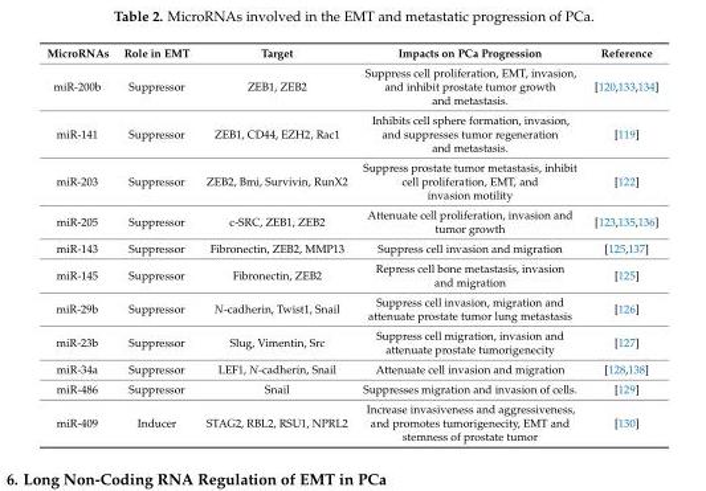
<table><thead><tr><td>MicroRNAs</td><td>Role in EMT</td><td>Target</td><td>Impacts on PCa Progression</td><td>Reference</td></tr></thead><tbody><tr><td>miR-200b</td><td>Suppressor</td><td>ZEB1, ZEB2</td><td>Suppress cell proliferation, EMT, invasion, and inhibit prostate tumor growth and metastasis.</td><td>[120,133,134]</td></tr><tr><td>miR-141</td><td>Suppressor</td><td>ZEB1, CD44, EZH2, Rac1</td><td>Inhibits cell sphere formation, invasion, and suppresses tumor regeneration and metastasis.</td><td>[119]</td></tr><tr><td>miR-203</td><td>Suppressor</td><td>ZEB2, Bmi, Survivin, RunX2</td><td>Suppress prostate tumor metastasis, inhibit cell proliferation, EMT, and invasion motility</td><td>[122]</td></tr><tr><td>miR-205</td><td>Suppressor</td><td>c-SRC, ZEB1, ZEB2</td><td>Attenuate cell proliferation, invasion and tumor growth</td><td>[123,135,136]</td></tr><tr><td>miR-143</td><td>Suppressor</td><td>Fibronectin, ZEB2, MMP13</td><td>Suppress cell invasion and migration</td><td>[125,137]</td></tr><tr><td>miR-145</td><td>Suppressor</td><td>Fibronectin, ZEB2</td><td>Repress cell bone metastasis, invasion and migration</td><td>[125]</td></tr><tr><td>miR-29b</td><td>Suppressor</td><td>N-cadherin, Twist1, Snail</td><td>Suppress cell invasion, migration and attenuate prostate tumor lung metastasis</td><td>[126]</td></tr><tr><td>miR-23b</td><td>Suppressor</td><td>Slug, Vimentin, Src</td><td>Suppress cell migration, invasion and attenuate prostate tumorigenecity</td><td>[127]</td></tr><tr><td>miR-34a</td><td>Suppressor</td><td>LEF1, N-cadherin, Snail</td><td>Attenuate cell invasion and migration</td><td>[128,138]</td></tr><tr><td>miR-486</td><td>Suppressor</td><td>Snail</td><td>Suppresses migration and invasion of cells.</td><td>[129]</td></tr><tr><td>miR-409</td><td>Inducer</td><td>STAG2, RBL2, RSU1, NPRL2</td><td>Increase invasiveness and aggressiveness, and promotes tumorigenecity, EMT and stemness of prostate tumor</td><td>[130]</td></tr></tbody></table>